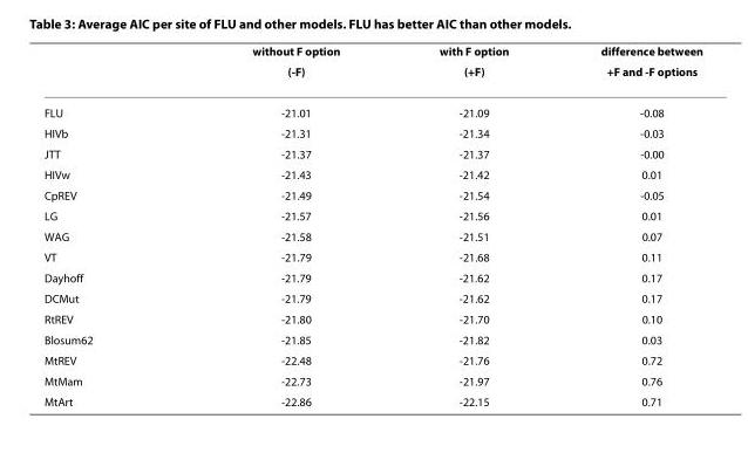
<table><thead><tr><td rowspan="2"></td><td rowspan="2">without F option (-F)</td><td rowspan="2">with F option (+F)</td><td rowspan="2">difference between +F and -F options</td></tr><tr></tr></thead><tbody><tr><td>FLU</td><td>-21.01</td><td>-21.09</td><td>-0.08</td></tr><tr><td>HIVb</td><td>-21.31</td><td>-21.34</td><td>-0.03</td></tr><tr><td>JTT</td><td>-21.37</td><td>-21.37</td><td>-0.00</td></tr><tr><td>HIVw</td><td>-21.43</td><td>-21.42</td><td>0.01</td></tr><tr><td>CpREV</td><td>-21.49</td><td>-21.54</td><td>-0.05</td></tr><tr><td>LG</td><td>-21.57</td><td>-21.56</td><td>0.01</td></tr><tr><td>WAG</td><td>-21.58</td><td>-21.51</td><td>0.07</td></tr><tr><td>VT</td><td>-21.79</td><td>-21.68</td><td>0.11</td></tr><tr><td>Dayhoff</td><td>-21.79</td><td>-21.62</td><td>0.17</td></tr><tr><td>DCMut</td><td>-21.79</td><td>-21.62</td><td>0.17</td></tr><tr><td>RtREV</td><td>-21.80</td><td>-21.70</td><td>0.10</td></tr><tr><td>Blosum62</td><td>-21.85</td><td>-21.82</td><td>0.03</td></tr><tr><td>MtREV</td><td>-22.48</td><td>-21.76</td><td>0.72</td></tr><tr><td>MtMam</td><td>-22.73</td><td>-21.97</td><td>0.76</td></tr><tr><td>MtArt</td><td>-22.86</td><td>-22.15</td><td>0.71</td></tr></tbody></table>